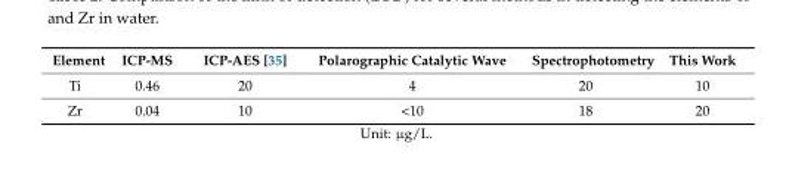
<table><thead><tr><td>Element</td><td>ICP-MS</td><td>ICP-AES [35]</td><td>Polarographic Catalytic Wave</td><td>Spectrophotometry</td><td>This Work</td></tr></thead><tbody><tr><td>Ti</td><td>0.46</td><td>20</td><td>4</td><td>20</td><td>10</td></tr><tr><td>Zr</td><td>0.04</td><td>10</td><td>&lt;10</td><td>18</td><td>20</td></tr></tbody></table>